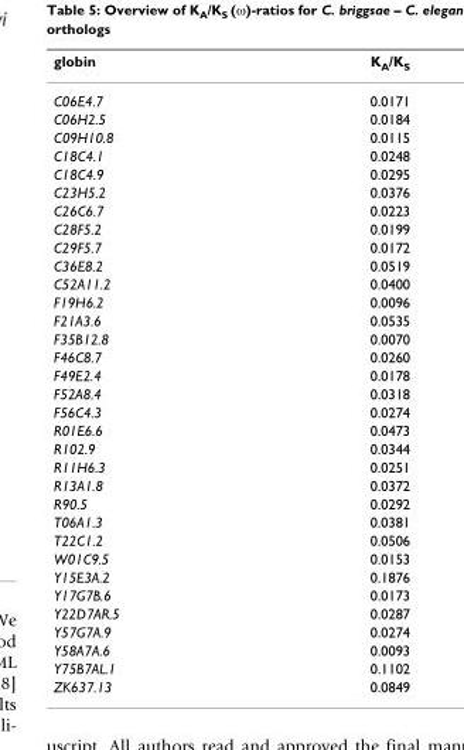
<table><thead><tr><td>globin</td><td>K<sub>A</sub>/K<sub>S</sub></td></tr></thead><tbody><tr><td>C06E4.7</td><td>0.0171</td></tr><tr><td>C06H2.5</td><td>0.0184</td></tr><tr><td>C09H10.8</td><td>0.0115</td></tr><tr><td>C18C4.1</td><td>0.0248</td></tr><tr><td>C18C4.9</td><td>0.0295</td></tr><tr><td>C23H5.2</td><td>0.0376</td></tr><tr><td>C26C6.7</td><td>0.0223</td></tr><tr><td>C28F5.2</td><td>0.0199</td></tr><tr><td>C29F5.7</td><td>0.0172</td></tr><tr><td>C36E8.2</td><td>0.0519</td></tr><tr><td>C52A11.2</td><td>0.0400</td></tr><tr><td>F19H6.2</td><td>0.0096</td></tr><tr><td>F21A3.6</td><td>0.0535</td></tr><tr><td>F35B12.8</td><td>0.0070</td></tr><tr><td>F46C8.7</td><td>0.0260</td></tr><tr><td>F49E2.4</td><td>0.0178</td></tr><tr><td>F52A8.4</td><td>0.0318</td></tr><tr><td>F56C4.3</td><td>0.0274</td></tr><tr><td>R01E6.6</td><td>0.0473</td></tr><tr><td>R102.9</td><td>0.0344</td></tr><tr><td>R11H6.3</td><td>0.0251</td></tr><tr><td>R13A1.8</td><td>0.0372</td></tr><tr><td>R90.5</td><td>0.0292</td></tr><tr><td>T06A1.3</td><td>0.0381</td></tr><tr><td>T22C1.2</td><td>0.0506</td></tr><tr><td>W01C9.5</td><td>0.0153</td></tr><tr><td>Y15E3A.2</td><td>0.1876</td></tr><tr><td>Y17G7B.6</td><td>0.0173</td></tr><tr><td>Y22D7AR.5</td><td>0.0287</td></tr><tr><td>Y57G7A.9</td><td>0.0274</td></tr><tr><td>Y58A7A.6</td><td>0.0093</td></tr><tr><td>Y75B7AL.1</td><td>0.1102</td></tr><tr><td>ZK637.13</td><td>0.0849</td></tr></tbody></table>